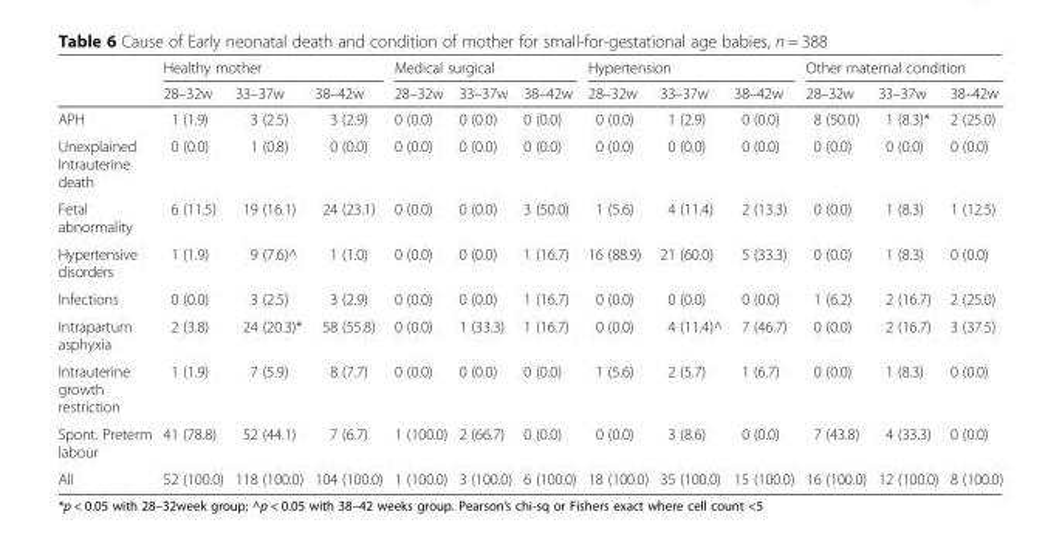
<table><thead><tr><td rowspan="2"></td><td colspan="3">Healthy mother</td><td colspan="3">Medical surgical</td><td colspan="3">Hypertension</td><td colspan="3">Other maternal condition</td></tr><tr><td>28–32w</td><td>33–37w</td><td>38–42w</td><td>28–32w</td><td>33–37w</td><td>38–42w</td><td>28–32w</td><td>33–37w</td><td>38–42w</td><td>28–32w</td><td>33–37w</td><td>38–42w</td></tr></thead><tbody><tr><td>APH</td><td>1 (1.9)</td><td>3 (2.5)</td><td>3 (2.9)</td><td>0 (0.0)</td><td>0 (0.0)</td><td>0 (0.0)</td><td>0 (0.0)</td><td>1 (2.9)</td><td>0 (0.0)</td><td>8 (50.0)</td><td>1 (8.3)*</td><td>2 (25.0)</td></tr><tr><td>Unexplained Intrauterine death</td><td>0 (0.0)</td><td>1 (0.8)</td><td>0 (0.0)</td><td>0 (0.0)</td><td>0 (0.0)</td><td>0 (0.0)</td><td>0 (0.0)</td><td>0 (0.0)</td><td>0 (0.0)</td><td>0 (0.0)</td><td>0 (0.0)</td><td>0 (0.0)</td></tr><tr><td>Fetal abnormality</td><td>6 (11.5)</td><td>19 (16.1)</td><td>24 (23.1)</td><td>0 (0.0)</td><td>0 (0.0)</td><td>3 (50.0)</td><td>1 (5.6)</td><td>4 (11.4)</td><td>2 (13.3)</td><td>0 (0.0)</td><td>1 (8.3)</td><td>1 (12.5)</td></tr><tr><td>Hypertensive disorders</td><td>1 (1.9)</td><td>9 (7.6)^</td><td>1 (1.0)</td><td>0 (0.0)</td><td>0 (0.0)</td><td>1 (16.7)</td><td>16 (88.9)</td><td>21 (60.0)</td><td>5 (33.3)</td><td>0 (0.0)</td><td>1 (8.3)</td><td>0 (0.0)</td></tr><tr><td>Infections</td><td>0 (0.0)</td><td>3 (2.5)</td><td>3 (2.9)</td><td>0 (0.0)</td><td>0 (0.0)</td><td>1 (16.7)</td><td>0 (0.0)</td><td>0 (0.0)</td><td>0 (0.0)</td><td>1 (6.2)</td><td>2 (16.7)</td><td>2 (25.0)</td></tr><tr><td>Intrapartum asphyxia</td><td>2 (3.8)</td><td>24 (20.3)*</td><td>58 (55.8)</td><td>0 (0.0)</td><td>1 (33.3)</td><td>1 (16.7)</td><td>0 (0.0)</td><td>4 (11.4)^</td><td>7 (46.7)</td><td>0 (0.0)</td><td>2 (16.7)</td><td>3 (37.5)</td></tr><tr><td>Intrauterine growth restriction</td><td>1 (1.9)</td><td>7 (5.9)</td><td>8 (7.7)</td><td>0 (0.0)</td><td>0 (0.0)</td><td>0 (0.0)</td><td>1 (5.6)</td><td>2 (5.7)</td><td>1 (6.7)</td><td>0 (0.0)</td><td>1 (8.3)</td><td>0 (0.0)</td></tr><tr><td>Spont. Preterm labour</td><td>41 (78.8)</td><td>52 (44.1)</td><td>7 (6.7)</td><td>1 (100.0)</td><td>2 (66.7)</td><td>0 (0.0)</td><td>0 (0.0)</td><td>3 (8.6)</td><td>0 (0.0)</td><td>7 (43.8)</td><td>4 (33.3)</td><td>0 (0.0)</td></tr><tr><td>All</td><td>52 (100.0)</td><td>118 (100.0)</td><td>104 (100.0)</td><td>1 (100.0)</td><td>3 (100.0)</td><td>6 (100.0)</td><td>18 (100.0)</td><td>35 (100.0)</td><td>15 (100.0)</td><td>16 (100.0)</td><td>12 (100.0)</td><td>8 (100.0)</td></tr></tbody></table>